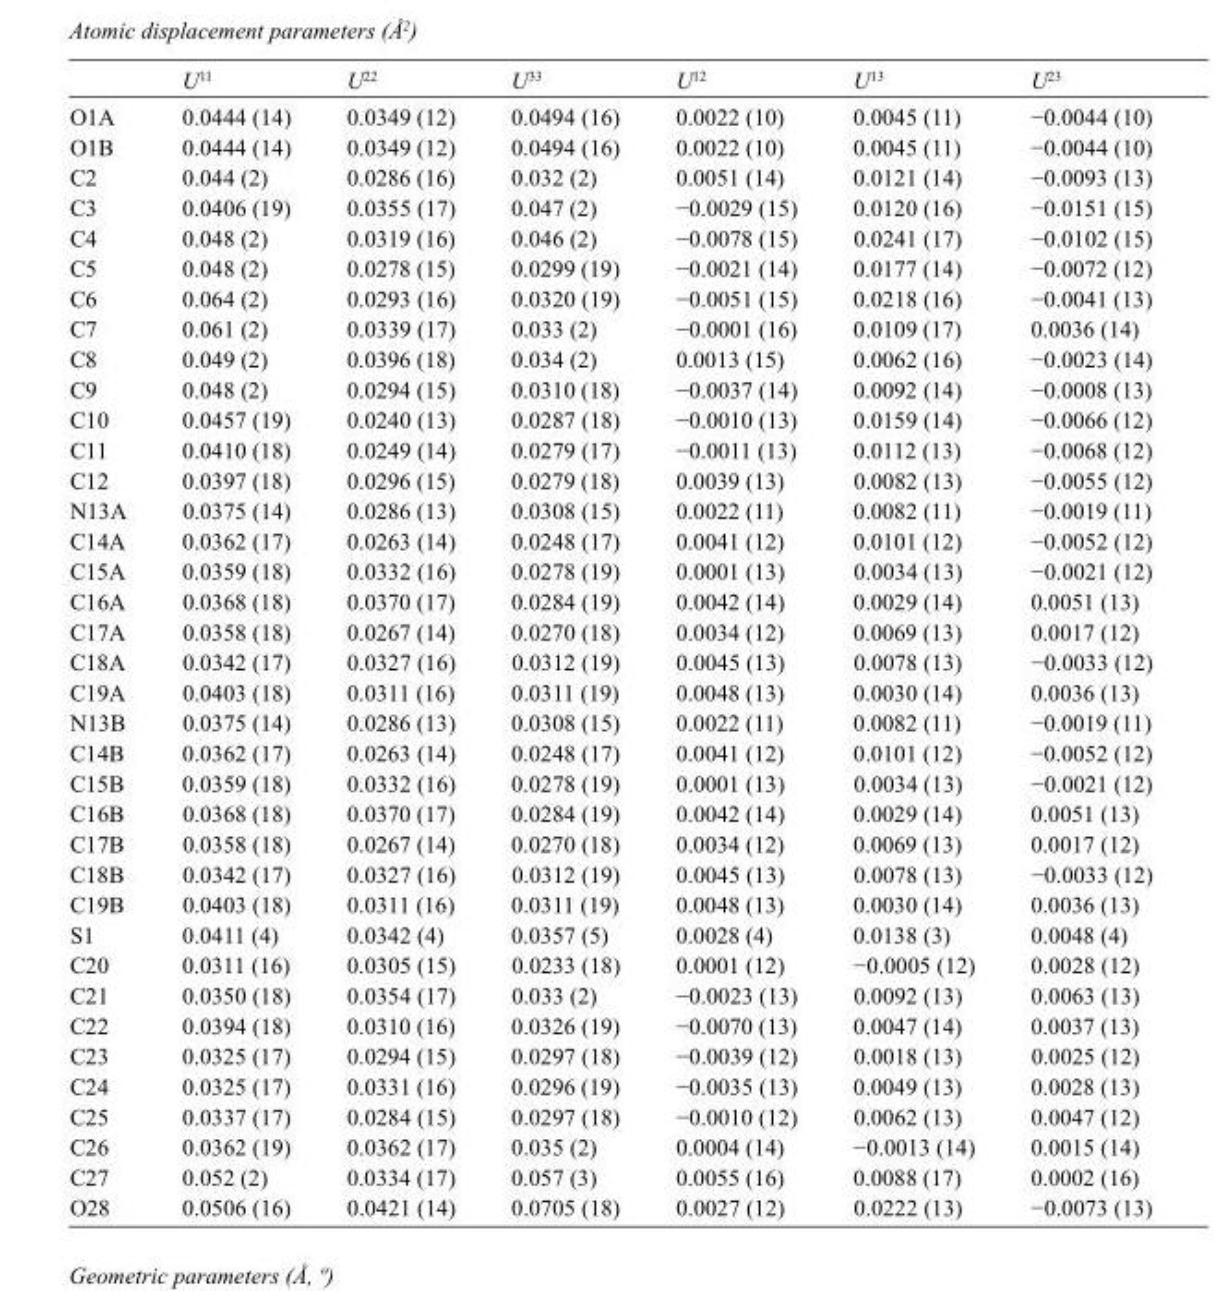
<table><thead><tr><td></td><td>U<sup>11</sup></td><td>U<sup>22</sup></td><td>U<sup>33</sup></td><td>U<sup>12</sup></td><td>U<sup>13</sup></td><td>U<sup>23</sup></td></tr></thead><tbody><tr><td>O1A</td><td>0.0444 (14)</td><td>0.0349 (12)</td><td>0.0494 (16)</td><td>0.0022 (10)</td><td>0.0045 (11)</td><td>−0.0044 (10)</td></tr><tr><td>O1B</td><td>0.0444 (14)</td><td>0.0349 (12)</td><td>0.0494 (16)</td><td>0.0022 (10)</td><td>0.0045 (11)</td><td>−0.0044 (10)</td></tr><tr><td>C2</td><td>0.044 (2)</td><td>0.0286 (16)</td><td>0.032 (2)</td><td>0.0051 (14)</td><td>0.0121 (14)</td><td>−0.0093 (13)</td></tr><tr><td>C3</td><td>0.0406 (19)</td><td>0.0355 (17)</td><td>0.047 (2)</td><td>−0.0029 (15)</td><td>0.0120 (16)</td><td>−0.0151 (15)</td></tr><tr><td>C4</td><td>0.048 (2)</td><td>0.0319 (16)</td><td>0.046 (2)</td><td>−0.0078 (15)</td><td>0.0241 (17)</td><td>−0.0102 (15)</td></tr><tr><td>C5</td><td>0.048 (2)</td><td>0.0278 (15)</td><td>0.0299 (19)</td><td>−0.0021 (14)</td><td>0.0177 (14)</td><td>−0.0072 (12)</td></tr><tr><td>C6</td><td>0.064 (2)</td><td>0.0293 (16)</td><td>0.0320 (19)</td><td>−0.0051 (15)</td><td>0.0218 (16)</td><td>−0.0041 (13)</td></tr><tr><td>C7</td><td>0.061 (2)</td><td>0.0339 (17)</td><td>0.033 (2)</td><td>−0.0001 (16)</td><td>0.0109 (17)</td><td>0.0036 (14)</td></tr><tr><td>C8</td><td>0.049 (2)</td><td>0.0396 (18)</td><td>0.034 (2)</td><td>0.0013 (15)</td><td>0.0062 (16)</td><td>−0.0023 (14)</td></tr><tr><td>C9</td><td>0.048 (2)</td><td>0.0294 (15)</td><td>0.0310 (18)</td><td>−0.0037 (14)</td><td>0.0092 (14)</td><td>−0.0008 (13)</td></tr><tr><td>C10</td><td>0.0457 (19)</td><td>0.0240 (13)</td><td>0.0287 (18)</td><td>−0.0010 (13)</td><td>0.0159 (14)</td><td>−0.0066 (12)</td></tr><tr><td>C11</td><td>0.0410 (18)</td><td>0.0249 (14)</td><td>0.0279 (17)</td><td>−0.0011 (13)</td><td>0.0112 (13)</td><td>−0.0068 (12)</td></tr><tr><td>C12</td><td>0.0397 (18)</td><td>0.0296 (15)</td><td>0.0279 (18)</td><td>0.0039 (13)</td><td>0.0082 (13)</td><td>−0.0055 (12)</td></tr><tr><td>N13A</td><td>0.0375 (14)</td><td>0.0286 (13)</td><td>0.0308 (15)</td><td>0.0022 (11)</td><td>0.0082 (11)</td><td>−0.0019 (11)</td></tr><tr><td>C14A</td><td>0.0362 (17)</td><td>0.0263 (14)</td><td>0.0248 (17)</td><td>0.0041 (12)</td><td>0.0101 (12)</td><td>−0.0052 (12)</td></tr><tr><td>C15A</td><td>0.0359 (18)</td><td>0.0332 (16)</td><td>0.0278 (19)</td><td>0.0001 (13)</td><td>0.0034 (13)</td><td>−0.0021 (12)</td></tr><tr><td>C16A</td><td>0.0368 (18)</td><td>0.0370 (17)</td><td>0.0284 (19)</td><td>0.0042 (14)</td><td>0.0029 (14)</td><td>0.0051 (13)</td></tr><tr><td>C17A</td><td>0.0358 (18)</td><td>0.0267 (14)</td><td>0.0270 (18)</td><td>0.0034 (12)</td><td>0.0069 (13)</td><td>0.0017 (12)</td></tr><tr><td>C18A</td><td>0.0342 (17)</td><td>0.0327 (16)</td><td>0.0312 (19)</td><td>0.0045 (13)</td><td>0.0078 (13)</td><td>−0.0033 (12)</td></tr><tr><td>C19A</td><td>0.0403 (18)</td><td>0.0311 (16)</td><td>0.0311 (19)</td><td>0.0048 (13)</td><td>0.0030 (14)</td><td>0.0036 (13)</td></tr><tr><td>N13B</td><td>0.0375 (14)</td><td>0.0286 (13)</td><td>0.0308 (15)</td><td>0.0022 (11)</td><td>0.0082 (11)</td><td>−0.0019 (11)</td></tr><tr><td>C14B</td><td>0.0362 (17)</td><td>0.0263 (14)</td><td>0.0248 (17)</td><td>0.0041 (12)</td><td>0.0101 (12)</td><td>−0.0052 (12)</td></tr><tr><td>C15B</td><td>0.0359 (18)</td><td>0.0332 (16)</td><td>0.0278 (19)</td><td>0.0001 (13)</td><td>0.0034 (13)</td><td>−0.0021 (12)</td></tr><tr><td>C16B</td><td>0.0368 (18)</td><td>0.0370 (17)</td><td>0.0284 (19)</td><td>0.0042 (14)</td><td>0.0029 (14)</td><td>0.0051 (13)</td></tr><tr><td>C17B</td><td>0.0358 (18)</td><td>0.0267 (14)</td><td>0.0270 (18)</td><td>0.0034 (12)</td><td>0.0069 (13)</td><td>0.0017 (12)</td></tr><tr><td>C18B</td><td>0.0342 (17)</td><td>0.0327 (16)</td><td>0.0312 (19)</td><td>0.0045 (13)</td><td>0.0078 (13)</td><td>−0.0033 (12)</td></tr><tr><td>C19B</td><td>0.0403 (18)</td><td>0.0311 (16)</td><td>0.0311 (19)</td><td>0.0048 (13)</td><td>0.0030 (14)</td><td>0.0036 (13)</td></tr><tr><td>S1</td><td>0.0411 (4)</td><td>0.0342 (4)</td><td>0.0357 (5)</td><td>0.0028 (4)</td><td>0.0138 (3)</td><td>0.0048 (4)</td></tr><tr><td>C20</td><td>0.0311 (16)</td><td>0.0305 (15)</td><td>0.0233 (18)</td><td>0.0001 (12)</td><td>−0.0005 (12)</td><td>0.0028 (12)</td></tr><tr><td>C21</td><td>0.0350 (18)</td><td>0.0354 (17)</td><td>0.033 (2)</td><td>−0.0023 (13)</td><td>0.0092 (13)</td><td>0.0063 (13)</td></tr><tr><td>C22</td><td>0.0394 (18)</td><td>0.0310 (16)</td><td>0.0326 (19)</td><td>−0.0070 (13)</td><td>0.0047 (14)</td><td>0.0037 (13)</td></tr><tr><td>C23</td><td>0.0325 (17)</td><td>0.0294 (15)</td><td>0.0297 (18)</td><td>−0.0039 (12)</td><td>0.0018 (13)</td><td>0.0025 (12)</td></tr><tr><td>C24</td><td>0.0325 (17)</td><td>0.0331 (16)</td><td>0.0296 (19)</td><td>−0.0035 (13)</td><td>0.0049 (13)</td><td>0.0028 (13)</td></tr><tr><td>C25</td><td>0.0337 (17)</td><td>0.0284 (15)</td><td>0.0297 (18)</td><td>−0.0010 (12)</td><td>0.0062 (13)</td><td>0.0047 (12)</td></tr><tr><td>C26</td><td>0.0362 (19)</td><td>0.0362 (17)</td><td>0.035 (2)</td><td>0.0004 (14)</td><td>−0.0013 (14)</td><td>0.0015 (14)</td></tr><tr><td>C27</td><td>0.052 (2)</td><td>0.0334 (17)</td><td>0.057 (3)</td><td>0.0055 (16)</td><td>0.0088 (17)</td><td>0.0002 (16)</td></tr><tr><td>O28</td><td>0.0506 (16)</td><td>0.0421 (14)</td><td>0.0705 (18)</td><td>0.0027 (12)</td><td>0.0222 (13)</td><td>−0.0073 (13)</td></tr></tbody></table>